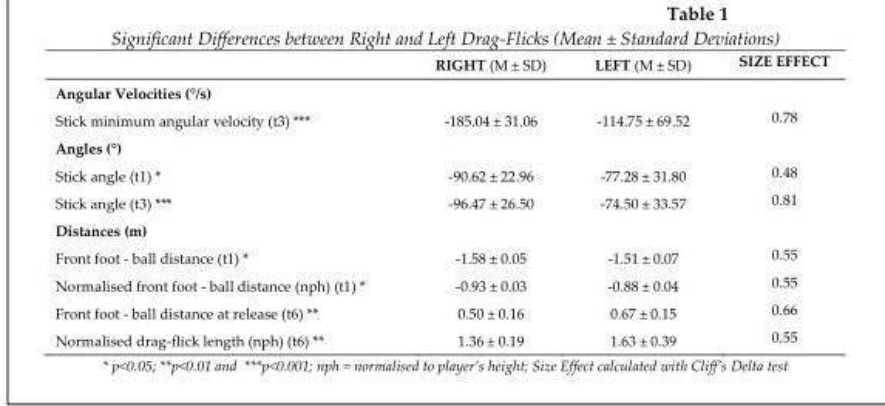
<table><thead><tr><td></td><td>RIGHT (M ± SD)</td><td>LEFT (M ± SD)</td><td>SIZE EFFECT</td></tr></thead><tbody><tr><td colspan="4">Angular Velocities (°/s)</td></tr><tr><td>Stick minimum angular velocity (t3) ***</td><td>-185.04 ± 31.06</td><td>-114.75 ± 69.52</td><td>0.78</td></tr><tr><td colspan="4">Angles (°)</td></tr><tr><td>Stick angle (t1) *</td><td>-90.62 ± 22.96</td><td>-77.28 ± 31.80</td><td>0.48</td></tr><tr><td>Stick angle (t3) ***</td><td>-96.47 ± 26.50</td><td>-74.50 ± 33.57</td><td>0.81</td></tr><tr><td colspan="4">Distances (m)</td></tr><tr><td>Front foot - ball distance (t1) *</td><td>-1.58 ± 0.05</td><td>-1.51 ± 0.07</td><td>0.55</td></tr><tr><td>Normalised front foot - ball distance (nph) (t1) *</td><td>-0.93 ± 0.03</td><td>-0.88 ± 0.04</td><td>0.55</td></tr><tr><td>Front foot - ball distance at release (t6) **</td><td>0.50 ± 0.16</td><td>0.67 ± 0.15</td><td>0.66</td></tr><tr><td>Normalised drag-flick length (nph) (t6) **</td><td>1.36 ± 0.19</td><td>1.63 ± 0.39</td><td>0.55</td></tr></tbody></table>